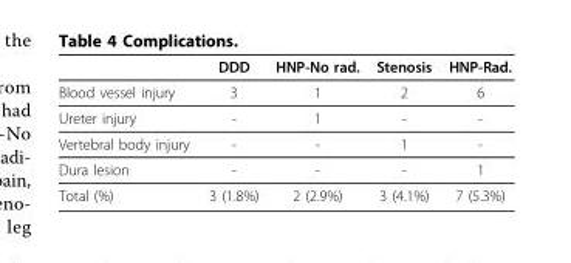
<table><thead><tr><td></td><td>DDD</td><td>HNP-No rad.</td><td>Stenosis</td><td>HNP-Rad.</td></tr></thead><tbody><tr><td>Blood vessel injury</td><td>3</td><td>1</td><td>2</td><td>6</td></tr><tr><td>Ureter injury</td><td>-</td><td>1</td><td>-</td><td>-</td></tr><tr><td>Vertebral body injury</td><td>-</td><td>-</td><td>1</td><td>-</td></tr><tr><td>Dura lesion</td><td>-</td><td>-</td><td>-</td><td>1</td></tr><tr><td>Total (%)</td><td>3 (1.8%)</td><td>2 (2.9%)</td><td>3 (4.1%)</td><td>7 (5.3%)</td></tr></tbody></table>